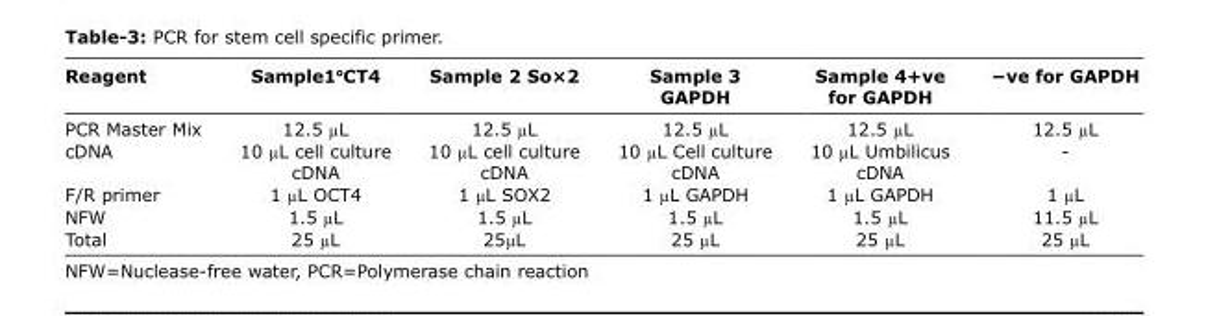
<table><thead><tr><td>Reagent</td><td>Sample1°CT4</td><td>Sample 2 So×2</td><td>Sample 3 GAPDH</td><td>Sample 4+ve for GAPDH</td><td>−ve for GAPDH</td></tr></thead><tbody><tr><td>PCR Master Mix</td><td>12.5 µL</td><td>12.5 µL</td><td>12.5 µL</td><td>12.5 µL</td><td>12.5 µL</td></tr><tr><td>cDNA</td><td>10 µL cell culture cDNA</td><td>10 µL cell culture cDNA</td><td>10 µL Cell culture cDNA</td><td>10 µL Umbilicus cDNA</td><td>-</td></tr><tr><td>F/R primer</td><td>1 µL OCT4</td><td>1 µL SOX2</td><td>1 µL GAPDH</td><td>1 µL GAPDH</td><td>1 µL</td></tr><tr><td>NFW</td><td>1.5 µL</td><td>1.5 µL</td><td>1.5 µL</td><td>1.5 µL</td><td>11.5 µL</td></tr><tr><td>Total</td><td>25 µL</td><td>25µL</td><td>25 µL</td><td>25 µL</td><td>25 µL</td></tr></tbody></table>